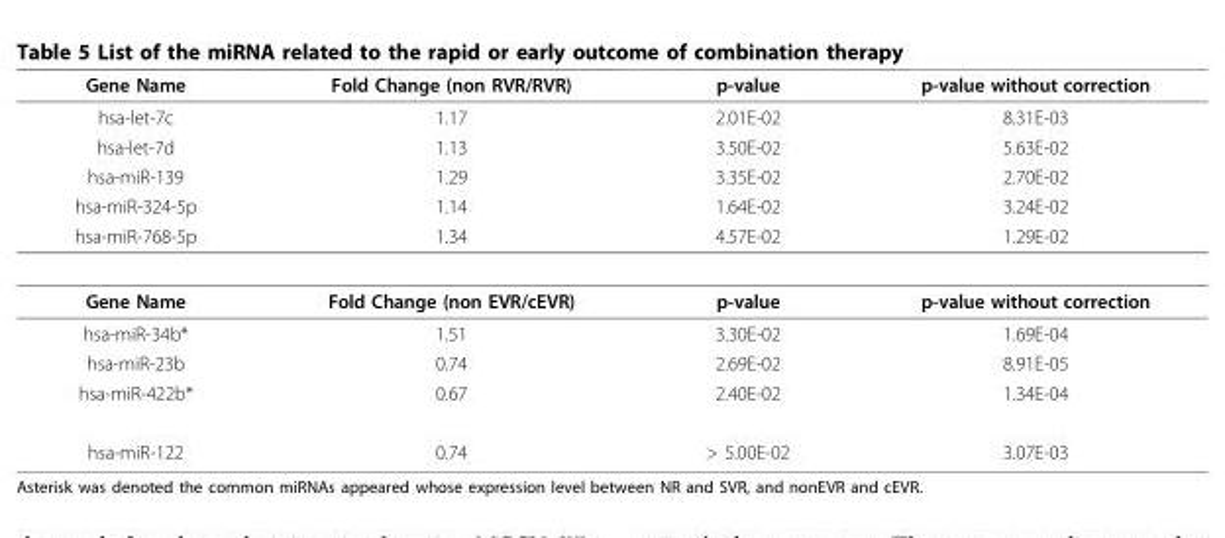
<table><thead><tr><td>Gene Name</td><td>Fold Change (non RVR/RVR)</td><td>p-value</td><td>p-value without correction</td></tr></thead><tbody><tr><td>hsa-let-7c</td><td>1.17</td><td>2.01E-02</td><td>8.31E-03</td></tr><tr><td>hsa-let-7d</td><td>1.13</td><td>3.50E-02</td><td>5.63E-02</td></tr><tr><td>hsa-miR-139</td><td>1.29</td><td>3.35E-02</td><td>2.70E-02</td></tr><tr><td>hsa-miR-324-5p</td><td>1.14</td><td>1.64E-02</td><td>3.24E-02</td></tr><tr><td>hsa-miR-768-5p</td><td>1.34</td><td>4.57E-02</td><td>1.29E-02</td></tr><tr><td>Gene Name</td><td>Fold Change (non EVR/cEVR)</td><td>p-value</td><td>p-value without correction</td></tr><tr><td>hsa-miR-34b*</td><td>1.51</td><td>3.30E-02</td><td>1.69E-04</td></tr><tr><td>hsa-miR-23b</td><td>0.74</td><td>2.69E-02</td><td>8.91E-05</td></tr><tr><td>hsa-miR-422b*</td><td>0.67</td><td>2.40E-02</td><td>1.34E-04</td></tr><tr><td>hsa-miR-122</td><td>0.74</td><td>&gt; 5.00E-02</td><td>3.07E-03</td></tr></tbody></table>